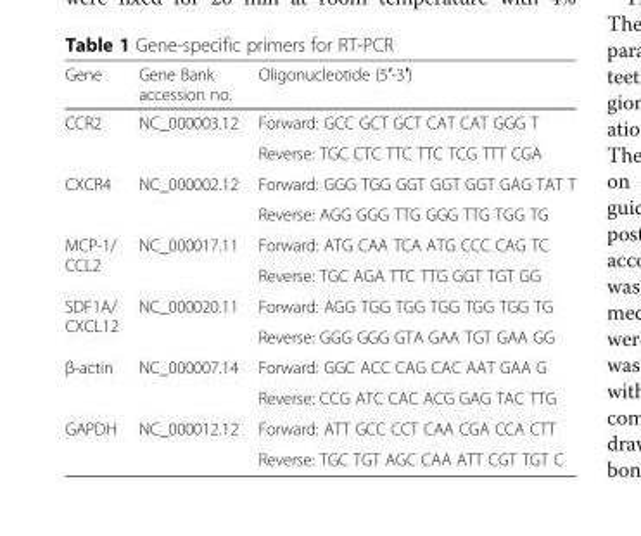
<table><thead><tr><td>Gene</td><td>Gene Bank accession no.</td><td>Oligonucleotide (5′-3′)</td></tr></thead><tbody><tr><td rowspan="2">CCR2</td><td rowspan="2">NC_000003.12</td><td>Forward: GCC GCT GCT CAT CAT GGG T</td></tr><tr><td>Reverse: TGC CTC TTC TTC TCG TTT CGA</td></tr><tr><td rowspan="2">CXCR4</td><td rowspan="2">NC_000002.12</td><td>Forward: GGG TGG GGT GGT GGT GAG TAT T</td></tr><tr><td>Reverse: AGG GGG TTG GGG TTG TGG TG</td></tr><tr><td rowspan="2">MCP-1/ CCL2</td><td rowspan="2">NC_000017.11</td><td>Forward: ATG CAA TCA ATG CCC CAG TC</td></tr><tr><td>Reverse: TGC AGA TTC TTG GGT TGT GG</td></tr><tr><td rowspan="2">SDF1A/ CXCL12</td><td rowspan="2">NC_000020.11</td><td>Forward: AGG TGG TGG TGG TGG TGG TG</td></tr><tr><td>Reverse: GGG GGG GTA GAA TGT GAA GG</td></tr><tr><td rowspan="2">β-actin</td><td rowspan="2">NC_000007.14</td><td>Forward: GGC ACC CAG CAC AAT GAA G</td></tr><tr><td>Reverse: CCG ATC CAC ACG GAG TAC TTG</td></tr><tr><td rowspan="2">GAPDH</td><td rowspan="2">NC_000012.12</td><td>Forward: ATT GCC CCT CAA CGA CCA CTT</td></tr><tr><td>Reverse: TGC TGT AGC CAA ATT CGT TGT C</td></tr></tbody></table>